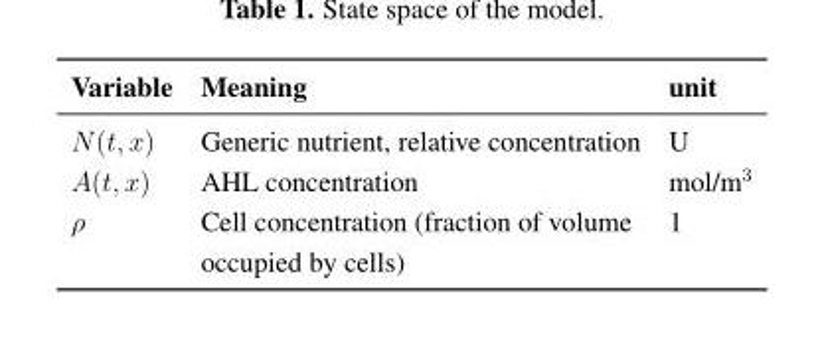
<table><thead><tr><td>Variable</td><td>Meaning</td><td>unit</td></tr></thead><tbody><tr><td>N(t, x)</td><td>Generic nutrient, relative concentration</td><td>U</td></tr><tr><td>A(t, x)</td><td>AHL concentration</td><td>mol/m<sup>3</sup></td></tr><tr><td>ρ</td><td>Cell concentration (fraction of volume occupied by cells)</td><td>1</td></tr></tbody></table>